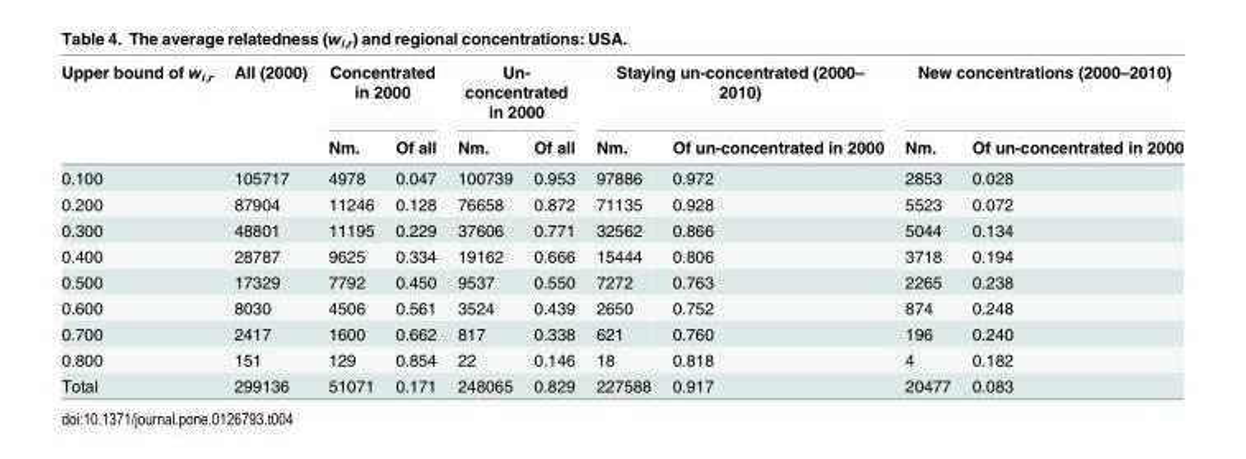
<table><thead><tr><td rowspan="2">Upper bound of w<sub>i,r</sub></td><td rowspan="2">All (2000)</td><td colspan="2">Concentrated in 2000</td><td colspan="2">Un- concentrated in 2000</td><td colspan="2">Staying un-concentrated (2000– 2010)</td><td colspan="2">New concentrations (2000–2010)</td></tr><tr><td>Nm.</td><td>Of all</td><td>Nm.</td><td>Of all</td><td>Nm.</td><td>Of un-concentrated in 2000</td><td>Nm.</td><td>Of un-concentrated in 2000</td></tr></thead><tbody><tr><td>0.100</td><td>105717</td><td>4978</td><td>0.047</td><td>100739</td><td>0.953</td><td>97886</td><td>0.972</td><td>2853</td><td>0.028</td></tr><tr><td>0.200</td><td>87904</td><td>11246</td><td>0.128</td><td>76658</td><td>0.872</td><td>71135</td><td>0.928</td><td>5523</td><td>0.072</td></tr><tr><td>0.300</td><td>48801</td><td>11195</td><td>0.229</td><td>37606</td><td>0.771</td><td>32562</td><td>0.866</td><td>5044</td><td>0.134</td></tr><tr><td>0.400</td><td>28787</td><td>9625</td><td>0.334</td><td>19162</td><td>0.666</td><td>15444</td><td>0.806</td><td>3718</td><td>0.194</td></tr><tr><td>0.500</td><td>17329</td><td>7792</td><td>0.450</td><td>9537</td><td>0.550</td><td>7272</td><td>0.763</td><td>2265</td><td>0.238</td></tr><tr><td>0.600</td><td>8030</td><td>4506</td><td>0.561</td><td>3524</td><td>0.439</td><td>2650</td><td>0.752</td><td>874</td><td>0.248</td></tr><tr><td>0.700</td><td>2417</td><td>1600</td><td>0.662</td><td>817</td><td>0.338</td><td>621</td><td>0.760</td><td>196</td><td>0.240</td></tr><tr><td>0.800</td><td>151</td><td>129</td><td>0.854</td><td>22</td><td>0.146</td><td>18</td><td>0.818</td><td>4</td><td>0.182</td></tr><tr><td>Total</td><td>299136</td><td>51071</td><td>0.171</td><td>248065</td><td>0.829</td><td>227588</td><td>0.917</td><td>20477</td><td>0.083</td></tr></tbody></table>